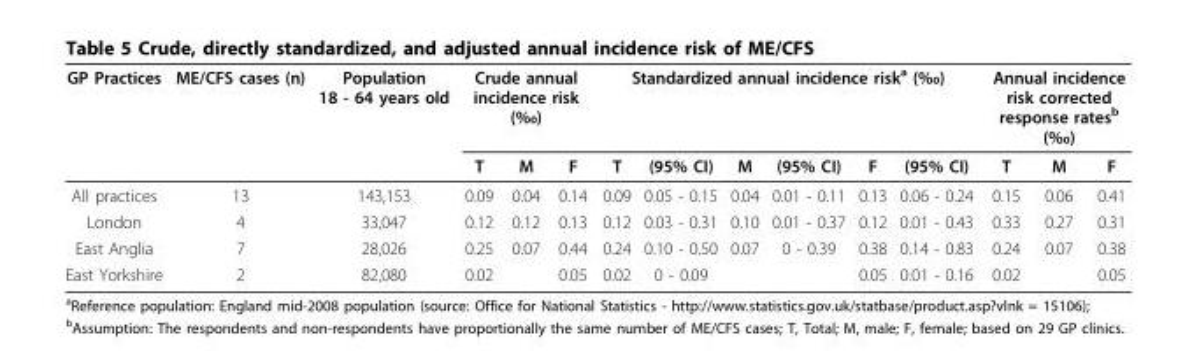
<table><thead><tr><td rowspan="2">GP Practices</td><td rowspan="2">ME/CFS cases (n)</td><td rowspan="2">Population 18 - 64 years old</td><td colspan="3">Crude annual incidence risk (‰)</td><td colspan="6">Standardized annual incidence risk<sup>a</sup> (‰)</td><td colspan="3">Annual incidence risk corrected response rates<sup>b</sup> (‰)</td></tr><tr><td>T</td><td>M</td><td>F</td><td>T</td><td>(95% CI)</td><td>M</td><td>(95% CI)</td><td>F</td><td>(95% CI)</td><td>T</td><td>M</td><td>F</td></tr></thead><tbody><tr><td>All practices</td><td>13</td><td>143,153</td><td>0.09</td><td>0.04</td><td>0.14</td><td>0.09</td><td>0.05 - 0.15</td><td>0.04</td><td>0.01 - 0.11</td><td>0.13</td><td>0.06 - 0.24</td><td>0.15</td><td>0.06</td><td>0.41</td></tr><tr><td>London</td><td>4</td><td>33,047</td><td>0.12</td><td>0.12</td><td>0.13</td><td>0.12</td><td>0.03 - 0.31</td><td>0.10</td><td>0.01 - 0.37</td><td>0.12</td><td>0.01 - 0.43</td><td>0.33</td><td>0.27</td><td>0.31</td></tr><tr><td>East Anglia</td><td>7</td><td>28,026</td><td>0.25</td><td>0.07</td><td>0.44</td><td>0.24</td><td>0.10 - 0.50</td><td>0.07</td><td>0 - 0.39</td><td>0.38</td><td>0.14 - 0.83</td><td>0.24</td><td>0.07</td><td>0.38</td></tr><tr><td>East Yorkshire</td><td>2</td><td>82,080</td><td>0.02</td><td></td><td>0.05</td><td>0.02</td><td>0 - 0.09</td><td></td><td></td><td>0.05</td><td>0.01 - 0.16</td><td>0.02</td><td></td><td>0.05</td></tr></tbody></table>